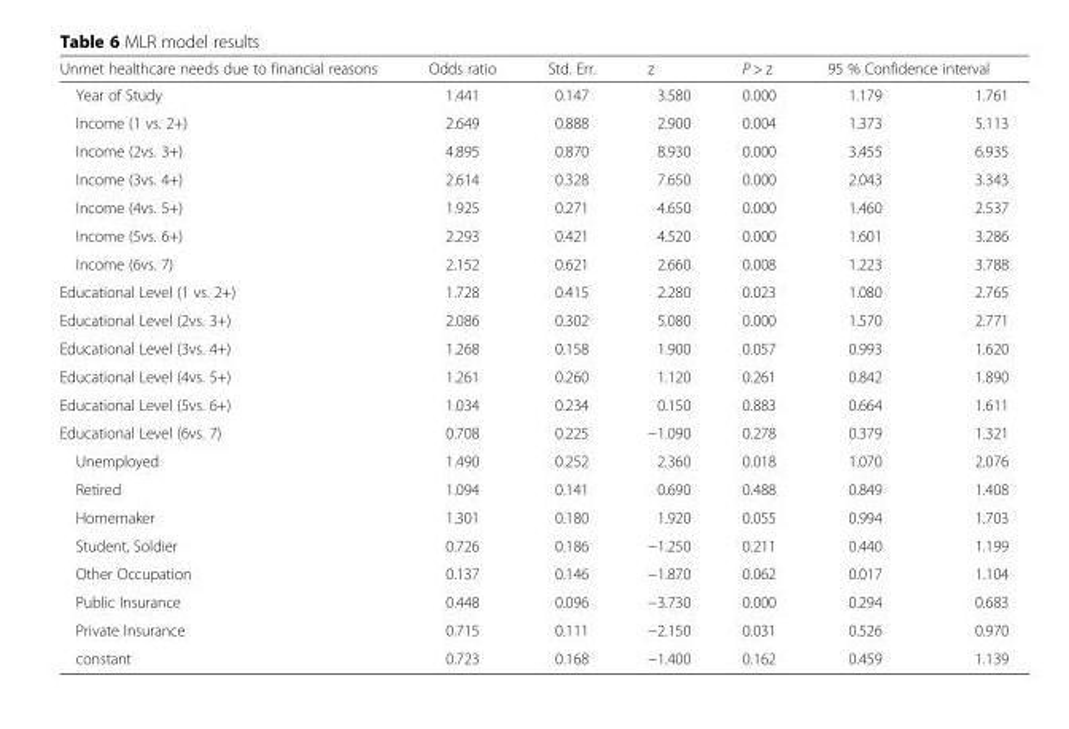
<table><thead><tr><td rowspan="2">Unmet healthcare needs due to financial reasons Year of Study</td><td rowspan="2">Odds ratio 1.441</td><td rowspan="2">Std. Err. 0.147</td><td rowspan="2">z 3.580</td><td rowspan="2">P &gt; z 0.000</td><td colspan="2">95 % Confidence interval</td></tr><tr><td>1.179</td><td>1.761</td></tr></thead><tbody><tr><td>Income (1 vs. 2+)</td><td>2.649</td><td>0.888</td><td>2.900</td><td>0.004</td><td>1.373</td><td>5.113</td></tr><tr><td>Income (2vs. 3+)</td><td>4.895</td><td>0.870</td><td>8.930</td><td>0.000</td><td>3.455</td><td>6.935</td></tr><tr><td>Income (3vs. 4+)</td><td>2.614</td><td>0.328</td><td>7.650</td><td>0.000</td><td>2.043</td><td>3.343</td></tr><tr><td>Income (4vs. 5+)</td><td>1.925</td><td>0.271</td><td>4.650</td><td>0.000</td><td>1.460</td><td>2.537</td></tr><tr><td>Income (5vs. 6+)</td><td>2.293</td><td>0.421</td><td>4.520</td><td>0.000</td><td>1.601</td><td>3.286</td></tr><tr><td>Income (6vs. 7)</td><td>2.152</td><td>0.621</td><td>2.660</td><td>0.008</td><td>1.223</td><td>3.788</td></tr><tr><td>Educational Level (1 vs. 2+)</td><td>1.728</td><td>0.415</td><td>2.280</td><td>0.023</td><td>1.080</td><td>2.765</td></tr><tr><td>Educational Level (2vs. 3+)</td><td>2.086</td><td>0.302</td><td>5.080</td><td>0.000</td><td>1.570</td><td>2.771</td></tr><tr><td>Educational Level (3vs. 4+)</td><td>1.268</td><td>0.158</td><td>1.900</td><td>0.057</td><td>0.993</td><td>1.620</td></tr><tr><td>Educational Level (4vs. 5+)</td><td>1.261</td><td>0.260</td><td>1.120</td><td>0.261</td><td>0.842</td><td>1.890</td></tr><tr><td>Educational Level (5vs. 6+)</td><td>1.034</td><td>0.234</td><td>0.150</td><td>0.883</td><td>0.664</td><td>1.611</td></tr><tr><td>Educational Level (6vs. 7)</td><td>0.708</td><td>0.225</td><td>−1.090</td><td>0.278</td><td>0.379</td><td>1.321</td></tr><tr><td>Unemployed</td><td>1.490</td><td>0.252</td><td>2.360</td><td>0.018</td><td>1.070</td><td>2.076</td></tr><tr><td>Retired</td><td>1.094</td><td>0.141</td><td>0.690</td><td>0.488</td><td>0.849</td><td>1.408</td></tr><tr><td>Homemaker</td><td>1.301</td><td>0.180</td><td>1.920</td><td>0.055</td><td>0.994</td><td>1.703</td></tr><tr><td>Student, Soldier</td><td>0.726</td><td>0.186</td><td>−1.250</td><td>0.211</td><td>0.440</td><td>1.199</td></tr><tr><td>Other Occupation</td><td>0.137</td><td>0.146</td><td>−1.870</td><td>0.062</td><td>0.017</td><td>1.104</td></tr><tr><td>Public Insurance</td><td>0.448</td><td>0.096</td><td>−3.730</td><td>0.000</td><td>0.294</td><td>0.683</td></tr><tr><td>Private Insurance</td><td>0.715</td><td>0.111</td><td>−2.150</td><td>0.031</td><td>0.526</td><td>0.970</td></tr><tr><td>constant</td><td>0.723</td><td>0.168</td><td>−1.400</td><td>0.162</td><td>0.459</td><td>1.139</td></tr></tbody></table>